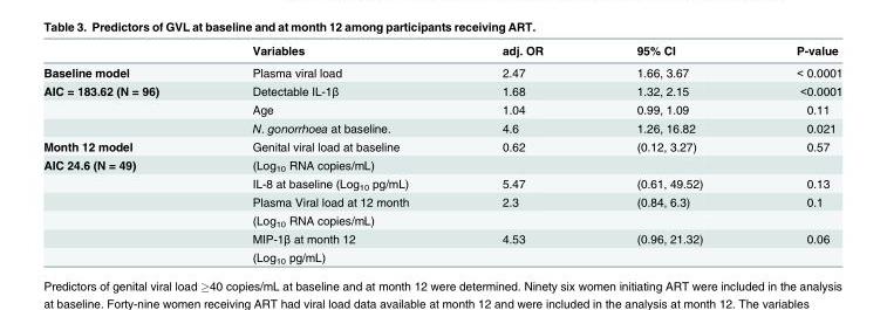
<table><thead><tr><td></td><td>Variables</td><td>adj. OR</td><td>95% CI</td><td>P-value</td></tr></thead><tbody><tr><td>Baseline model</td><td>Plasma viral load</td><td>2.47</td><td>1.66, 3.67</td><td>&lt; 0.0001</td></tr><tr><td rowspan="3">AIC = 183.62 (N = 96)</td><td>Detectable IL-1β</td><td>1.68</td><td>1.32, 2.15</td><td>&lt;0.0001</td></tr><tr><td>Age</td><td>1.04</td><td>0.99, 1.09</td><td>0.11</td></tr><tr><td>N. gonorrhoea at baseline.</td><td>4.6</td><td>1.26, 16.82</td><td>0.021</td></tr><tr><td>Month 12 model</td><td>Genital viral load at baseline</td><td>0.62</td><td>(0.12, 3.27)</td><td>0.57</td></tr><tr><td rowspan="6">AIC 24.6 (N = 49)</td><td>(Log<sub>10</sub> RNA copies/mL)</td><td></td><td></td><td></td></tr><tr><td>IL-8 at baseline (Log<sub>10</sub> pg/mL)</td><td>5.47</td><td>(0.61, 49.52)</td><td>0.13</td></tr><tr><td>Plasma Viral load at 12 month</td><td>2.3</td><td>(0.84, 6.3)</td><td>0.1</td></tr><tr><td>(Log<sub>10</sub> RNA copies/mL)</td><td></td><td></td><td></td></tr><tr><td>MIP-1β at month 12</td><td>4.53</td><td>(0.96, 21.32)</td><td>0.06</td></tr><tr><td>(Log<sub>10</sub> pg/mL)</td><td></td><td></td><td></td></tr></tbody></table>